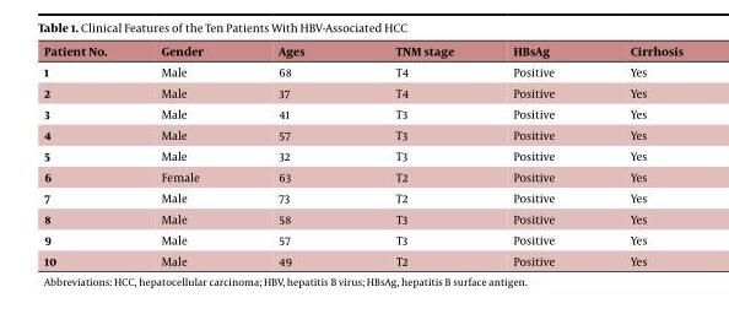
<table><thead><tr><td>Patient No.</td><td>Gender</td><td>Ages</td><td>TNM stage</td><td>HBsAg</td><td>Cirrhosis</td></tr></thead><tbody><tr><td>1</td><td>Male</td><td>68</td><td>T4</td><td>Positive</td><td>Yes</td></tr><tr><td>2</td><td>Male</td><td>37</td><td>T4</td><td>Positive</td><td>Yes</td></tr><tr><td>3</td><td>Male</td><td>41</td><td>T3</td><td>Positive</td><td>Yes</td></tr><tr><td>4</td><td>Male</td><td>57</td><td>T3</td><td>Positive</td><td>Yes</td></tr><tr><td>5</td><td>Male</td><td>32</td><td>T3</td><td>Positive</td><td>Yes</td></tr><tr><td>6</td><td>Female</td><td>63</td><td>T2</td><td>Positive</td><td>Yes</td></tr><tr><td>7</td><td>Male</td><td>73</td><td>T2</td><td>Positive</td><td>Yes</td></tr><tr><td>8</td><td>Male</td><td>58</td><td>T3</td><td>Positive</td><td>Yes</td></tr><tr><td>9</td><td>Male</td><td>57</td><td>T3</td><td>Positive</td><td>Yes</td></tr><tr><td>10</td><td>Male</td><td>49</td><td>T2</td><td>Positive</td><td>Yes</td></tr></tbody></table>